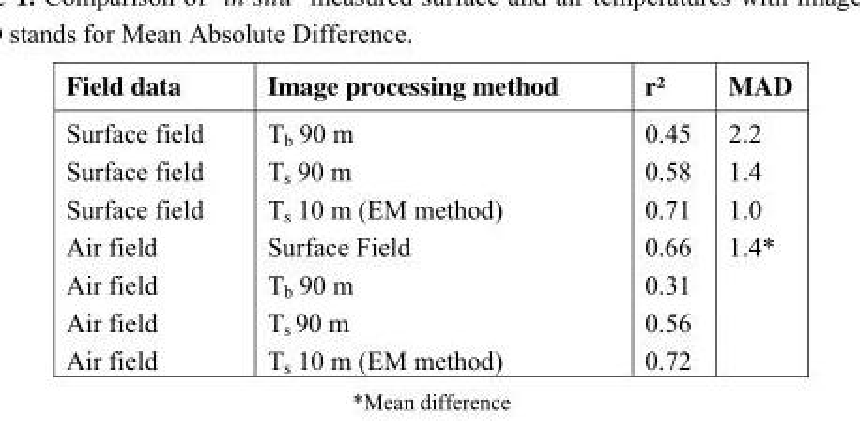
<table><thead><tr><td>Field data</td><td>Image processing method</td><td>r²</td><td>MAD</td></tr></thead><tbody><tr><td>Surface field</td><td>T<sub>b</sub> 90 m</td><td>0.45</td><td>2.2</td></tr><tr><td>Surface field</td><td>T<sub>s</sub> 90 m</td><td>0.58</td><td>1.4</td></tr><tr><td>Surface field</td><td>T<sub>s</sub> 10 m (EM method)</td><td>0.71</td><td>1.0</td></tr><tr><td>Air field</td><td>Surface Field</td><td>0.66</td><td>1.4*</td></tr><tr><td>Air field</td><td>T<sub>b</sub> 90 m</td><td>0.31</td><td></td></tr><tr><td>Air field</td><td>T<sub>s</sub> 90 m</td><td>0.56</td><td></td></tr><tr><td>Air field</td><td>T<sub>s</sub> 10 m (EM method)</td><td>0.72</td><td></td></tr></tbody></table>